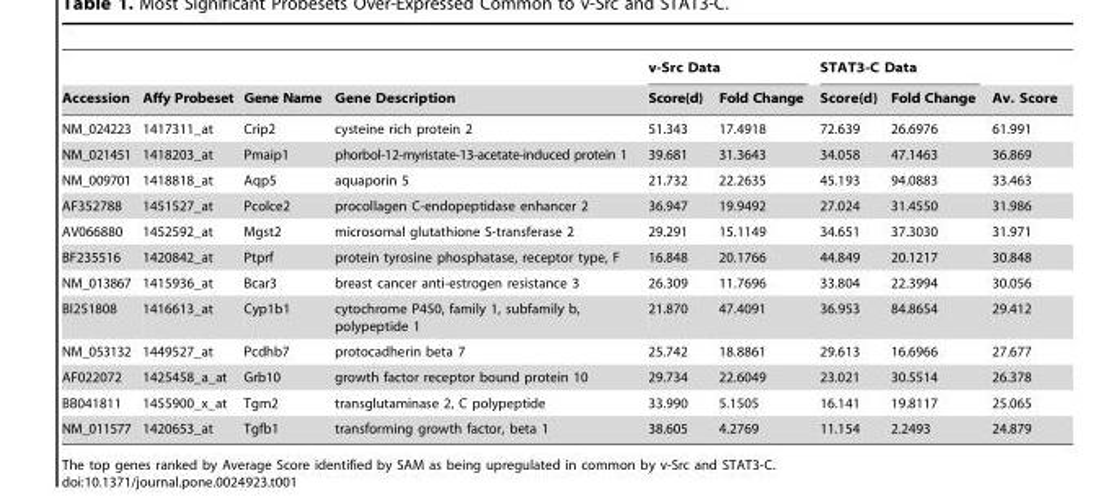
<table><thead><tr><td rowspan="2">Accession</td><td rowspan="2">Affy Probeset</td><td rowspan="2">Gene Name</td><td rowspan="2">Gene Description</td><td colspan="2">v-Src Data</td><td colspan="2">STAT3-C Data</td><td rowspan="2">Av. Score</td></tr><tr><td>Score(d)</td><td>Fold Change</td><td>Score(d)</td><td>Fold Change</td></tr></thead><tbody><tr><td>NM_024223</td><td>1417311_at</td><td>Crip2</td><td>cysteine rich protein 2</td><td>51.343</td><td>17.4918</td><td>72.639</td><td>26.6976</td><td>61.991</td></tr><tr><td>NM_021451</td><td>1418203_at</td><td>Pmaip1</td><td>phorbol-12-myristate-13-acetate-induced protein 1</td><td>39.681</td><td>31.3643</td><td>34.058</td><td>47.1463</td><td>36.869</td></tr><tr><td>NM_009701</td><td>1418818_at</td><td>Aqp5</td><td>aquaporin 5</td><td>21.732</td><td>22.2635</td><td>45.193</td><td>94.0883</td><td>33.463</td></tr><tr><td>AF352788</td><td>1451527_at</td><td>Pcolce2</td><td>procollagen C-endopeptidase enhancer 2</td><td>36.947</td><td>19.9492</td><td>27.024</td><td>31.4550</td><td>31.986</td></tr><tr><td>AV066880</td><td>1452592_at</td><td>Mgst2</td><td>microsomal glutathione S-transferase 2</td><td>29.291</td><td>15.1149</td><td>34.651</td><td>37.3030</td><td>31.971</td></tr><tr><td>BF235516</td><td>1420842_at</td><td>Ptprf</td><td>protein tyrosine phosphatase, receptor type, F</td><td>16.848</td><td>20.1766</td><td>44.849</td><td>20.1217</td><td>30.848</td></tr><tr><td>NM_013867</td><td>1415936_at</td><td>Bcar3</td><td>breast cancer anti-estrogen resistance 3</td><td>26.309</td><td>11.7696</td><td>33.804</td><td>22.3994</td><td>30.056</td></tr><tr><td>BI251808</td><td>1416613_at</td><td>Cyp1b1</td><td>cytochrome P450, family 1, subfamily b, polypeptide 1</td><td>21.870</td><td>47.4091</td><td>36.953</td><td>84.8654</td><td>29.412</td></tr><tr><td>NM_053132</td><td>1449527_at</td><td>Pcdhb7</td><td>protocadherin beta 7</td><td>25.742</td><td>18.8861</td><td>29.613</td><td>16.6966</td><td>27.677</td></tr><tr><td>AF022072</td><td>1425458_a_at</td><td>Grb10</td><td>growth factor receptor bound protein 10</td><td>29.734</td><td>22.6049</td><td>23.021</td><td>30.5514</td><td>26.378</td></tr><tr><td>BB041811</td><td>1455900_x_at</td><td>Tgm2</td><td>transglutaminase 2, C polypeptide</td><td>33.990</td><td>5.1505</td><td>16.141</td><td>19.8117</td><td>25.065</td></tr><tr><td>NM_011577</td><td>1420653_at</td><td>Tgfb1</td><td>transforming growth factor, beta 1</td><td>38.605</td><td>4.2769</td><td>11.154</td><td>2.2493</td><td>24.879</td></tr></tbody></table>